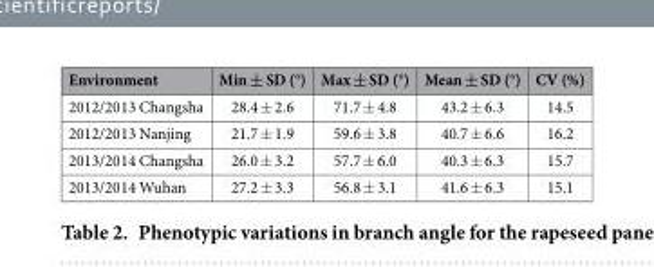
<table><thead><tr><td>Environment</td><td>Min ± SD (°)</td><td>Max ± SD (°)</td><td>Mean ± SD (°)</td><td>CV (%)</td></tr></thead><tbody><tr><td>2012/2013 Changsha</td><td>28.4 ± 2.6</td><td>71.7 ± 4.8</td><td>43.2 ± 6.3</td><td>14.5</td></tr><tr><td>2012/2013 Nanjing</td><td>21.7 ± 1.9</td><td>59.6 ± 3.8</td><td>40.7 ± 6.6</td><td>16.2</td></tr><tr><td>2013/2014 Changsha</td><td>26.0 ± 3.2</td><td>57.7 ± 6.0</td><td>40.3 ± 6.3</td><td>15.7</td></tr><tr><td>2013/2014 Wuhan</td><td>27.2 ± 3.3</td><td>56.8 ± 3.1</td><td>41.6 ± 6.3</td><td>15.1</td></tr></tbody></table>